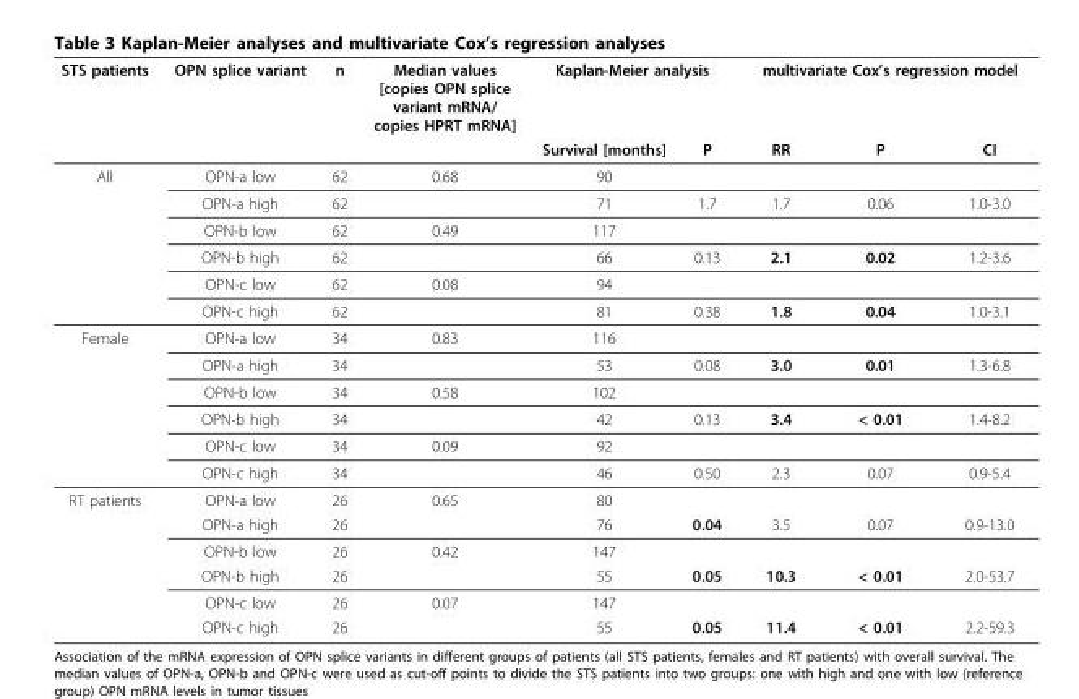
<table><thead><tr><td rowspan="2">STS patients</td><td rowspan="2">OPN splice variant</td><td rowspan="2">n</td><td rowspan="2">Median values [copies OPN splice variant mRNA/ copies HPRT mRNA]</td><td colspan="2">Kaplan-Meier analysis</td><td colspan="3">multivariate Cox’s regression model</td></tr><tr><td>Survival [months]</td><td>P</td><td>RR</td><td>P</td><td>CI</td></tr></thead><tbody><tr><td rowspan="6">All</td><td>OPN-a low</td><td>62</td><td>0.68</td><td>90</td><td></td><td></td><td></td><td></td></tr><tr><td>OPN-a high</td><td>62</td><td></td><td>71</td><td>1.7</td><td>1.7</td><td>0.06</td><td>1.0-3.0</td></tr><tr><td>OPN-b low</td><td>62</td><td>0.49</td><td>117</td><td></td><td></td><td></td><td></td></tr><tr><td>OPN-b high</td><td>62</td><td></td><td>66</td><td>0.13</td><td>2.1</td><td>0.02</td><td>1.2-3.6</td></tr><tr><td>OPN-c low</td><td>62</td><td>0.08</td><td>94</td><td></td><td></td><td></td><td></td></tr><tr><td>OPN-c high</td><td>62</td><td></td><td>81</td><td>0.38</td><td>1.8</td><td>0.04</td><td>1.0-3.1</td></tr><tr><td rowspan="6">Female</td><td>OPN-a low</td><td>34</td><td>0.83</td><td>116</td><td></td><td></td><td></td><td></td></tr><tr><td>OPN-a high</td><td>34</td><td></td><td>53</td><td>0.08</td><td>3.0</td><td>0.01</td><td>1.3-6.8</td></tr><tr><td>OPN-b low</td><td>34</td><td>0.58</td><td>102</td><td></td><td></td><td></td><td></td></tr><tr><td>OPN-b high</td><td>34</td><td></td><td>42</td><td>0.13</td><td>3.4</td><td>&lt; 0.01</td><td>1.4-8.2</td></tr><tr><td>OPN-c low</td><td>34</td><td>0.09</td><td>92</td><td></td><td></td><td></td><td></td></tr><tr><td>OPN-c high</td><td>34</td><td></td><td>46</td><td>0.50</td><td>2.3</td><td>0.07</td><td>0.9-5.4</td></tr><tr><td rowspan="6">RT patients</td><td>OPN-a low</td><td>26</td><td>0.65</td><td>80</td><td></td><td></td><td></td><td></td></tr><tr><td>OPN-a high</td><td>26</td><td></td><td>76</td><td>0.04</td><td>3.5</td><td>0.07</td><td>0.9-13.0</td></tr><tr><td>OPN-b low</td><td>26</td><td>0.42</td><td>147</td><td></td><td></td><td></td><td></td></tr><tr><td>OPN-b high</td><td>26</td><td></td><td>55</td><td>0.05</td><td>10.3</td><td>&lt; 0.01</td><td>2.0-53.7</td></tr><tr><td>OPN-c low</td><td>26</td><td>0.07</td><td>147</td><td></td><td></td><td></td><td></td></tr><tr><td>OPN-c high</td><td>26</td><td></td><td>55</td><td>0.05</td><td>11.4</td><td>&lt; 0.01</td><td>2.2-59.3</td></tr></tbody></table>